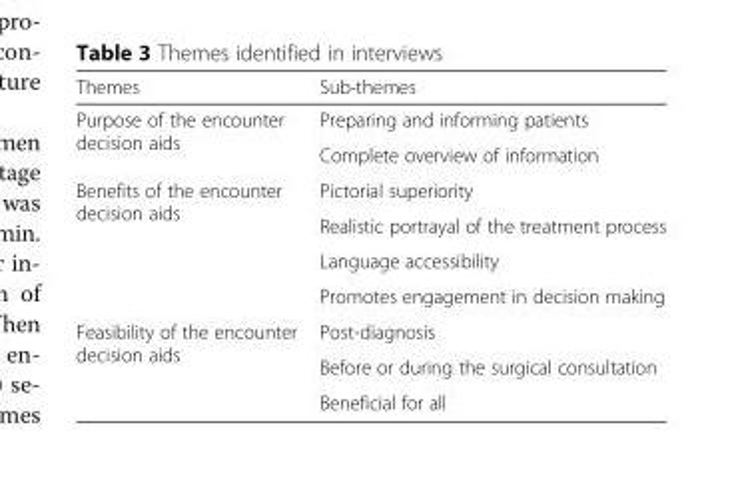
<table><thead><tr><td>Themes</td><td>Sub-themes</td></tr></thead><tbody><tr><td rowspan="2">Purpose of the encounter decision aids</td><td>Preparing and informing patients</td></tr><tr><td>Complete overview of information</td></tr><tr><td rowspan="4">Benefits of the encounter decision aids</td><td>Pictorial superiority</td></tr><tr><td>Realistic portrayal of the treatment process</td></tr><tr><td>Language accessibility</td></tr><tr><td>Promotes engagement in decision making</td></tr><tr><td rowspan="3">Feasibility of the encounter decision aids</td><td>Post-diagnosis</td></tr><tr><td>Before or during the surgical consultation</td></tr><tr><td>Beneficial for all</td></tr></tbody></table>